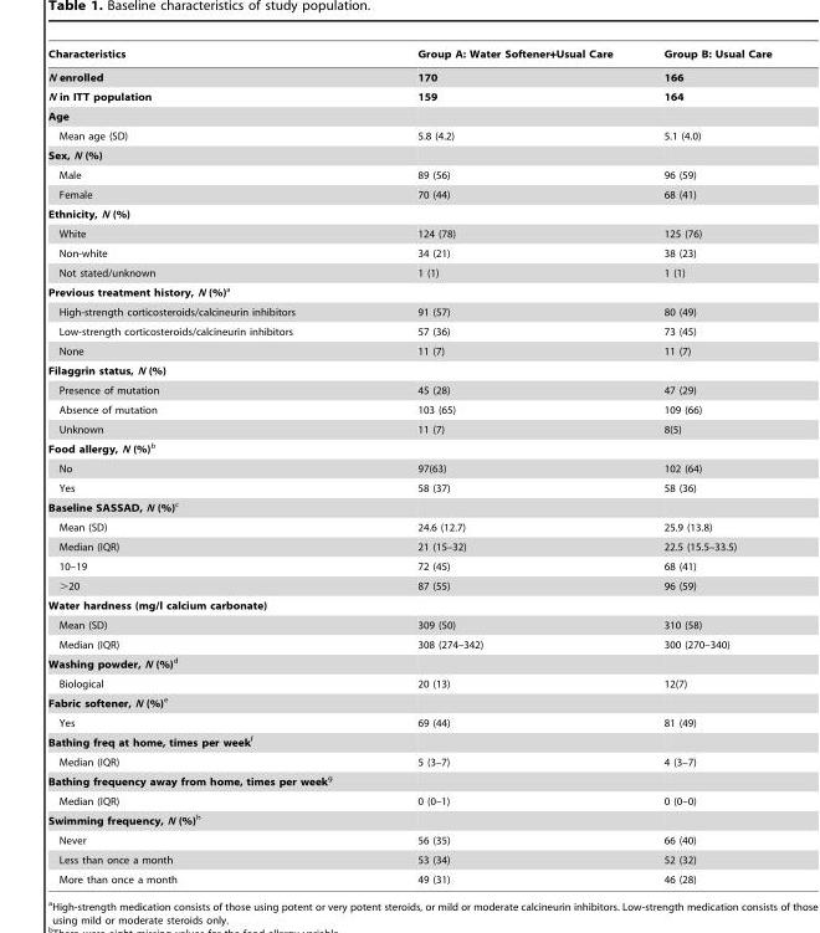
<table><thead><tr><td>Characteristics</td><td>Group A: Water Softener+Usual Care</td><td>Group B: Usual Care</td></tr></thead><tbody><tr><td>N enrolled</td><td>170</td><td>166</td></tr><tr><td>N in ITT population</td><td>159</td><td>164</td></tr><tr><td colspan="3">Age</td></tr><tr><td>Mean age (SD)</td><td>5.8 (4.2)</td><td>5.1 (4.0)</td></tr><tr><td colspan="3">Sex, N (%)</td></tr><tr><td>Male</td><td>89 (56)</td><td>96 (59)</td></tr><tr><td>Female</td><td>70 (44)</td><td>68 (41)</td></tr><tr><td colspan="3">Ethnicity, N (%)</td></tr><tr><td>White</td><td>124 (78)</td><td>125 (76)</td></tr><tr><td>Non-white</td><td>34 (21)</td><td>38 (23)</td></tr><tr><td>Not stated/unknown</td><td>1 (1)</td><td>1 (1)</td></tr><tr><td colspan="3">Previous treatment history, N (%)a</td></tr><tr><td>High-strength corticosteroids/calcineurin inhibitors</td><td>91 (57)</td><td>80 (49)</td></tr><tr><td>Low-strength corticosteroids/calcineurin inhibitors</td><td>57 (36)</td><td>73 (45)</td></tr><tr><td>None</td><td>11 (7)</td><td>11 (7)</td></tr><tr><td colspan="3">Filaggrin status, N (%)</td></tr><tr><td>Presence of mutation</td><td>45 (28)</td><td>47 (29)</td></tr><tr><td>Absence of mutation</td><td>103 (65)</td><td>109 (66)</td></tr><tr><td>Unknown</td><td>11 (7)</td><td>8(5)</td></tr><tr><td colspan="3">Food allergy, N (%)b</td></tr><tr><td>No</td><td>97(63)</td><td>102 (64)</td></tr><tr><td>Yes</td><td>58 (37)</td><td>58 (36)</td></tr><tr><td colspan="3">Baseline SASSAD, N (%)c</td></tr><tr><td>Mean (SD)</td><td>24.6 (12.7)</td><td>25.9 (13.8)</td></tr><tr><td>Median (IQR)</td><td>21 (15–32)</td><td>22.5 (15.5–33.5)</td></tr><tr><td>10–19</td><td>72 (45)</td><td>68 (41)</td></tr><tr><td>&gt;20</td><td>87 (55)</td><td>96 (59)</td></tr><tr><td colspan="3">Water hardness (mg/l calcium carbonate)</td></tr><tr><td>Mean (SD)</td><td>309 (50)</td><td>310 (58)</td></tr><tr><td>Median (IQR)</td><td>308 (274–342)</td><td>300 (270–340)</td></tr><tr><td colspan="3">Washing powder, N (%)d</td></tr><tr><td>Biological</td><td>20 (13)</td><td>12(7)</td></tr><tr><td colspan="3">Fabric softener, N (%)e</td></tr><tr><td>Yes</td><td>69 (44)</td><td>81 (49)</td></tr><tr><td colspan="3">Bathing freq at home, times per weekf</td></tr><tr><td>Median (IQR)</td><td>5 (3–7)</td><td>4 (3–7)</td></tr><tr><td colspan="3">Bathing frequency away from home, times per weekg</td></tr><tr><td>Median (IQR)</td><td>0 (0–1)</td><td>0 (0–0)</td></tr><tr><td colspan="3">Swimming frequency, N (%)h</td></tr><tr><td>Never</td><td>56 (35)</td><td>66 (40)</td></tr><tr><td>Less than once a month</td><td>53 (34)</td><td>52 (32)</td></tr><tr><td>More than once a month</td><td>49 (31)</td><td>46 (28)</td></tr></tbody></table>